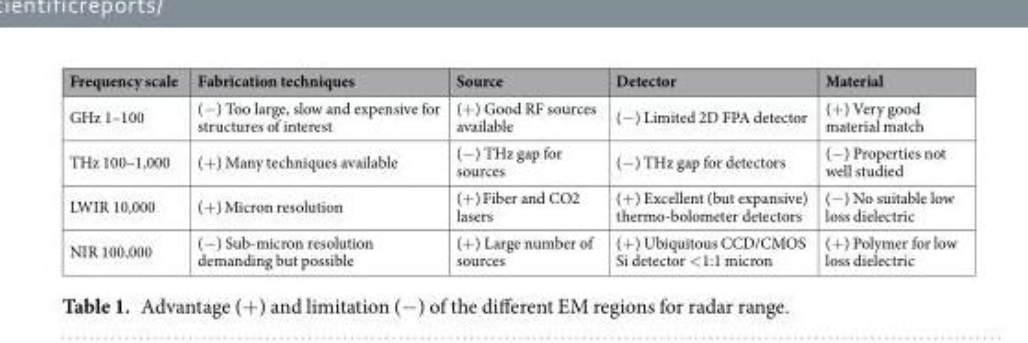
<table><thead><tr><td>Frequency scale</td><td>Fabrication techniques</td><td>Source</td><td>Detector</td><td>Material</td></tr></thead><tbody><tr><td>GHz 1–100</td><td>(−) Too large, slow and expensive for structures of interest</td><td>(+) Good RF sources available</td><td>(−) Limited 2D FPA detector</td><td>(+) Very good material match</td></tr><tr><td>THz 100–1,000</td><td>(+) Many techniques available</td><td>(−) THz gap for sources</td><td>(−) THz gap for detectors</td><td>(−) Properties not well studied</td></tr><tr><td>LWIR 10,000</td><td>(+) Micron resolution</td><td>(+) Fiber and CO2 lasers</td><td>(+) Excellent (but expansive) thermo-bolometer detectors</td><td>(−) No suitable low loss dielectric</td></tr><tr><td>NIR 100,000</td><td>(−) Sub-micron resolution demanding but possible</td><td>(+) Large number of sources</td><td>(+) Ubiquitous CCD/CMOS Si detector &lt;1:1 micron</td><td>(+) Polymer for low loss dielectric</td></tr></tbody></table>